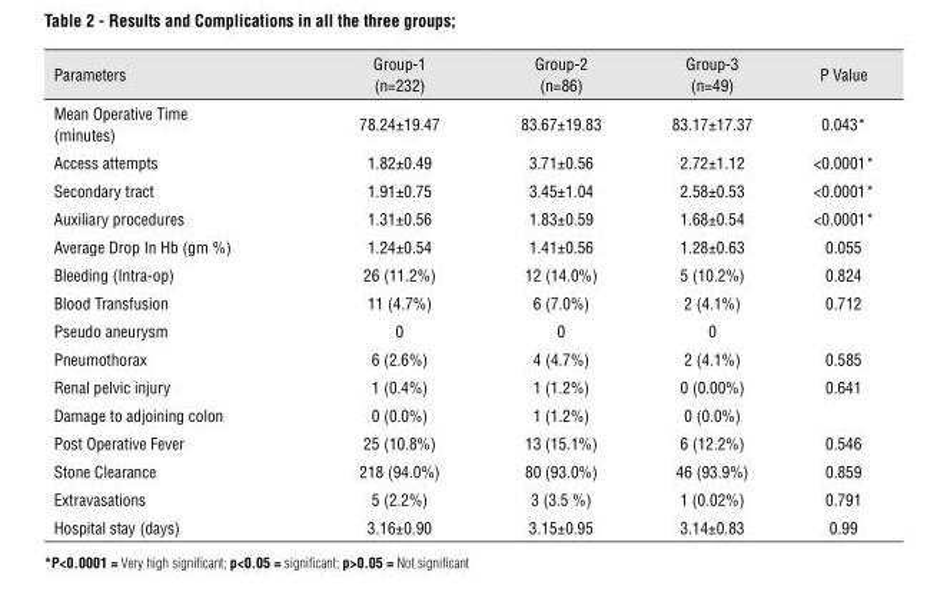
<table><thead><tr><td>Parameters</td><td>Group-1 (n=232)</td><td>Group-2 (n=86)</td><td>Group-3 (n=49)</td><td>P Value</td></tr></thead><tbody><tr><td>Mean Operative Time (minutes)</td><td>78.24±19.47</td><td>83.67±19.83</td><td>83.17±17.37</td><td>0.043*</td></tr><tr><td>Access attempts</td><td>1.82±0.49</td><td>3.71±0.56</td><td>2.72±1.12</td><td>&lt;0.0001*</td></tr><tr><td>Secondary tract</td><td>1.91±0.75</td><td>3.45±1.04</td><td>2.58±0.53</td><td>&lt;0.0001*</td></tr><tr><td>Auxiliary procedures</td><td>1.31±0.56</td><td>1.83±0.59</td><td>1.68±0.54</td><td>&lt;0.0001*</td></tr><tr><td>Average Drop In Hb (gm %)</td><td>1.24±0.54</td><td>1.41±0.56</td><td>1.28±0.63</td><td>0.055</td></tr><tr><td>Bleeding (Intra-op)</td><td>26 (11.2%)</td><td>12 (14.0%)</td><td>5 (10.2%)</td><td>0.824</td></tr><tr><td>Blood Transfusion</td><td>11 (4.7%)</td><td>6 (7.0%)</td><td>2 (4.1%)</td><td>0.712</td></tr><tr><td>Pseudo aneurysm</td><td>0</td><td>0</td><td>0</td><td></td></tr><tr><td>Pneumothorax</td><td>6 (2.6%)</td><td>4 (4.7%)</td><td>2 (4.1%)</td><td>0.585</td></tr><tr><td>Renal pelvic injury</td><td>1 (0.4%)</td><td>1 (1.2%)</td><td>0 (0.00%)</td><td>0.641</td></tr><tr><td>Damage to adjoining colon</td><td>0 (0.0%)</td><td>1 (1.2%)</td><td>0 (0.0%)</td><td></td></tr><tr><td>Post Operative Fever</td><td>25 (10.8%)</td><td>13 (15.1%)</td><td>6 (12.2%)</td><td>0.546</td></tr><tr><td>Stone Clearance</td><td>218 (94.0%)</td><td>80 (93.0%)</td><td>46 (93.9%)</td><td>0.859</td></tr><tr><td>Extravasations</td><td>5 (2.2%)</td><td>3 (3.5 %)</td><td>1 (0.02%)</td><td>0.791</td></tr><tr><td>Hospital stay (days)</td><td>3.16±0.90</td><td>3.15±0.95</td><td>3.14±0.83</td><td>0.99</td></tr></tbody></table>